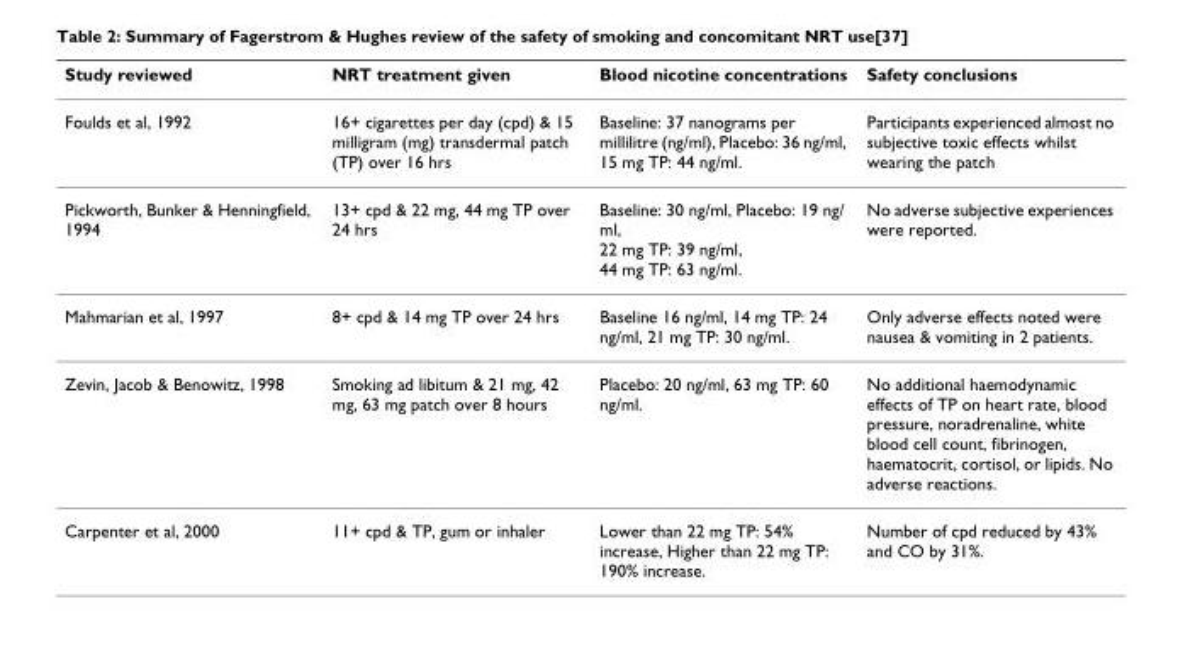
<table><thead><tr><td>Study reviewed</td><td>NRT treatment given</td><td>Blood nicotine concentrations</td><td>Safety conclusions</td></tr></thead><tbody><tr><td>Foulds et al, 1992</td><td>16+ cigarettes per day (cpd) &amp; 15 milligram (mg) transdermal patch (TP) over 16 hrs</td><td>Baseline: 37 nanograms per millilitre (ng/ml), Placebo: 36 ng/ml, 15 mg TP: 44 ng/ml.</td><td>Participants experienced almost no subjective toxic effects whilst wearing the patch</td></tr><tr><td>Pickworth, Bunker &amp; Henningfield, 1994</td><td>13+ cpd &amp; 22 mg, 44 mg TP over 24 hrs</td><td>Baseline: 30 ng/ml, Placebo: 19 ng/ ml, 22 mg TP: 39 ng/ml, 44 mg TP: 63 ng/ml.</td><td>No adverse subjective experiences were reported.</td></tr><tr><td>Mahmarian et al, 1997</td><td>8+ cpd &amp; 14 mg TP over 24 hrs</td><td>Baseline 16 ng/ml, 14 mg TP: 24 ng/ml, 21 mg TP: 30 ng/ml.</td><td>Only adverse effects noted were nausea &amp; vomiting in 2 patients.</td></tr><tr><td>Zevin, Jacob &amp; Benowitz, 1998</td><td>Smoking ad libitum &amp; 21 mg, 42 mg, 63 mg patch over 8 hours</td><td>Placebo: 20 ng/ml, 63 mg TP: 60 ng/ml.</td><td>No additional haemodynamic effects of TP on heart rate, blood pressure, noradrenaline, white blood cell count, fibrinogen, haematocrit, cortisol, or lipids. No adverse reactions.</td></tr><tr><td>Carpenter et al, 2000</td><td>11+ cpd &amp; TP, gum or inhaler</td><td>Lower than 22 mg TP: 54% increase, Higher than 22 mg TP: 190% increase.</td><td>Number of cpd reduced by 43% and CO by 31%.</td></tr></tbody></table>